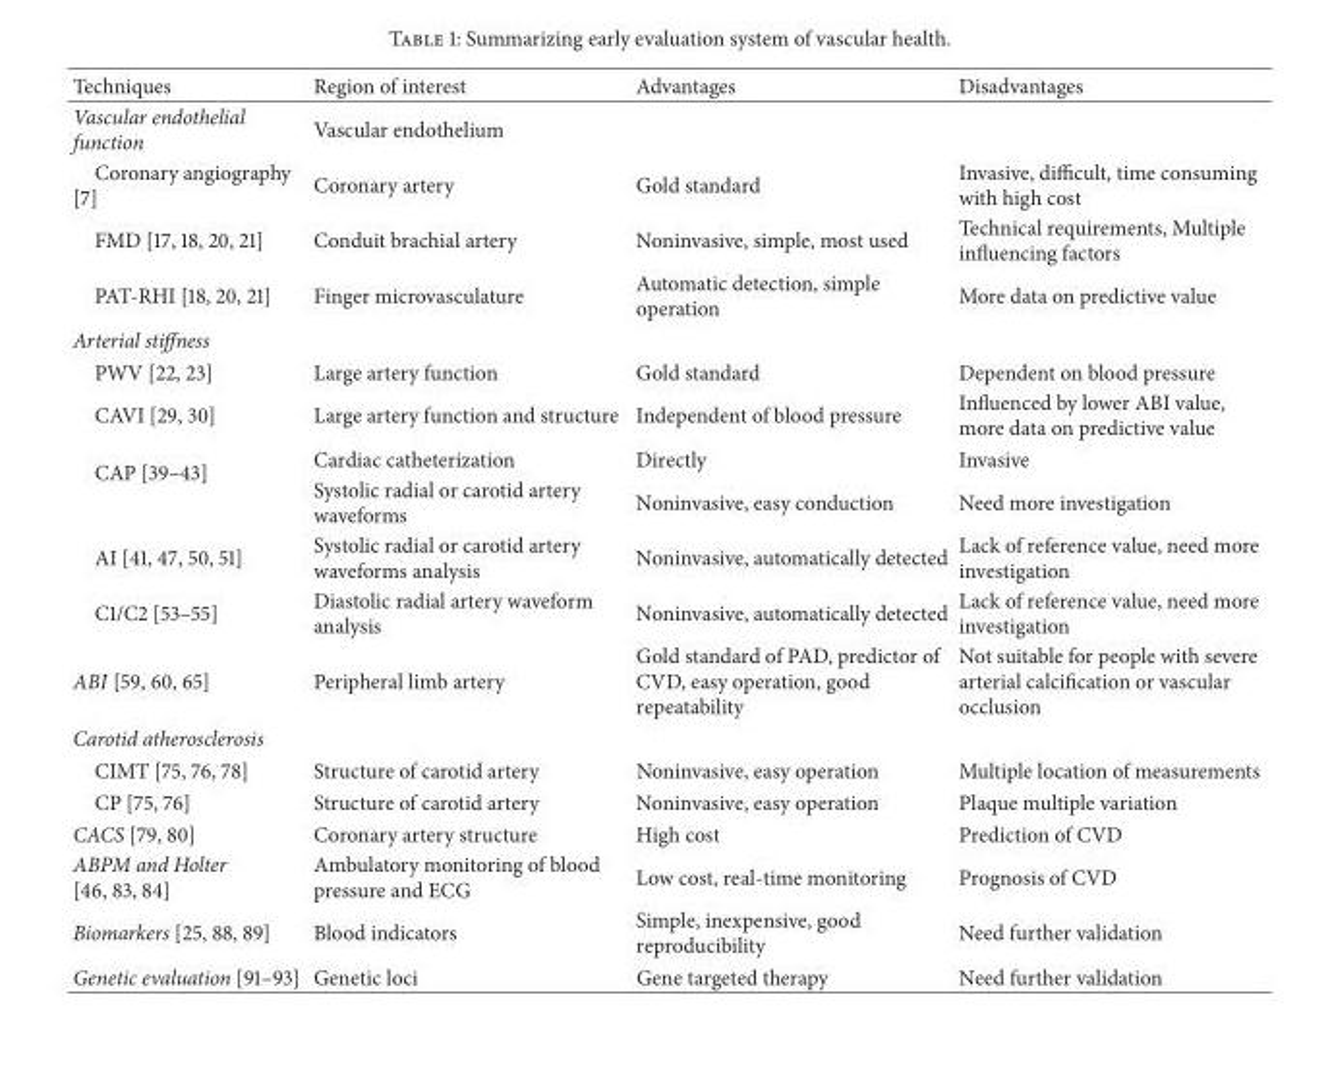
<table><thead><tr><td>Techniques</td><td>Region of interest</td><td>Advantages</td><td>Disadvantages</td></tr></thead><tbody><tr><td>Vascular endothelial function</td><td>Vascular endothelium</td><td></td><td></td></tr><tr><td>Coronary angiography [7]</td><td>Coronary artery</td><td>Gold standard</td><td>Invasive, difficult, time consuming with high cost</td></tr><tr><td>FMD [17, 18, 20, 21]</td><td>Conduit brachial artery</td><td>Noninvasive, simple, most used</td><td>Technical requirements, Multiple influencing factors</td></tr><tr><td>PAT-RHI [18, 20, 21]</td><td>Finger microvasculature</td><td>Automatic detection, simple operation</td><td>More data on predictive value</td></tr><tr><td colspan="4">Arterial stiffness</td></tr><tr><td>PWV [22, 23]</td><td>Large artery function</td><td>Gold standard</td><td>Dependent on blood pressure</td></tr><tr><td>CAVI [29, 30]</td><td>Large artery function and structure</td><td>Independent of blood pressure</td><td>Influenced by lower ABI value, more data on predictive value</td></tr><tr><td rowspan="2">CAP [39–43]</td><td>Cardiac catheterization</td><td>Directly</td><td>Invasive</td></tr><tr><td>Systolic radial or carotid artery waveforms</td><td>Noninvasive, easy conduction</td><td>Need more investigation</td></tr><tr><td>AI [41, 47, 50, 51]</td><td>Systolic radial or carotid artery waveforms analysis</td><td>Noninvasive, automatically detected</td><td>Lack of reference value, need more investigation</td></tr><tr><td>C1/C2 [53–55]</td><td>Diastolic radial artery waveform analysis</td><td>Noninvasive, automatically detected</td><td>Lack of reference value, need more investigation</td></tr><tr><td>ABI [59, 60, 65]</td><td>Peripheral limb artery</td><td>Gold standard of PAD, predictor of CVD, easy operation, good repeatability</td><td>Not suitable for people with severe arterial calcification or vascular occlusion</td></tr><tr><td colspan="4">Carotid atherosclerosis</td></tr><tr><td>CIMT [75, 76, 78]</td><td>Structure of carotid artery</td><td>Noninvasive, easy operation</td><td>Multiple location of measurements</td></tr><tr><td>CP [75, 76]</td><td>Structure of carotid artery</td><td>Noninvasive, easy operation</td><td>Plaque multiple variation</td></tr><tr><td>CACS [79, 80]</td><td>Coronary artery structure</td><td>High cost</td><td>Prediction of CVD</td></tr><tr><td>ABPM and Holter [46, 83, 84]</td><td>Ambulatory monitoring of blood pressure and ECG</td><td>Low cost, real-time monitoring</td><td>Prognosis of CVD</td></tr><tr><td>Biomarkers [25, 88, 89]</td><td>Blood indicators</td><td>Simple, inexpensive, good reproducibility</td><td>Need further validation</td></tr><tr><td>Genetic evaluation [91–93]</td><td>Genetic loci</td><td>Gene targeted therapy</td><td>Need further validation</td></tr></tbody></table>